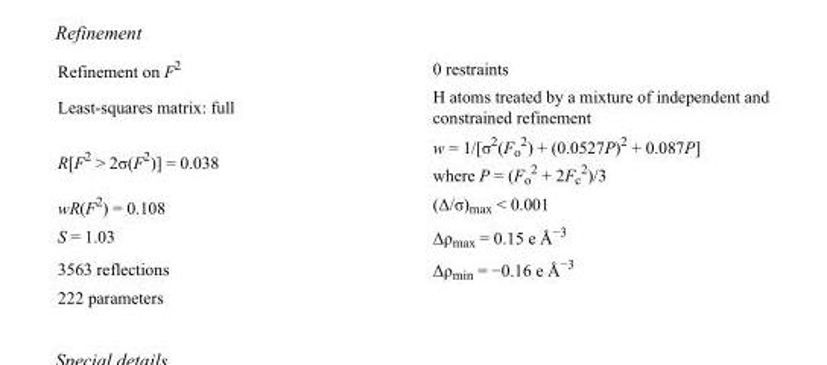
<table><tbody><tr><td>Refinement on F<sup>2</sup></td><td>0 restraints</td></tr><tr><td>Least-squares matrix: full</td><td>H atoms treated by a mixture of independent and constrained refinement</td></tr><tr><td>R[F<sup>2</sup> &gt; 2σ(F<sup>2</sup>)] = 0.038</td><td>w = 1/[σ<sup>2</sup>(F<sub>o</sub> <sup>2</sup>) + (0.0527P)<sup>2</sup> + 0.087P] where P = (F<sub>o</sub> <sup>2</sup> + 2F<sub>c</sub> <sup>2</sup>)/3</td></tr><tr><td>wR(F<sup>2</sup>) = 0.108</td><td>(Δ/σ)<sub>max</sub> &lt; 0.001</td></tr><tr><td>S = 1.03</td><td>Δρ<sub>max</sub> = 0.15 e Å<sup>−3</sup></td></tr><tr><td>3563 reflections</td><td>Δρ<sub>min</sub> = −0.16 e Å<sup>−3</sup></td></tr><tr><td>222 parameters</td><td></td></tr></tbody></table>